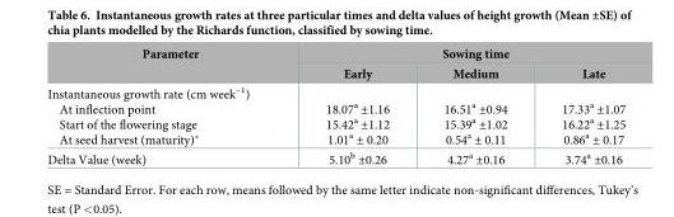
<table><thead><tr><td rowspan="2">Parameter</td><td colspan="3">Sowing time</td></tr><tr><td>Early</td><td>Medium</td><td>Late</td></tr></thead><tbody><tr><td>Instantaneous growth rate (cm week<sup>–1</sup>) At inflection point Start of the flowering stage At seed harvest (maturity)*</td><td>18.07<sup>a</sup> ±1.16 15.42<sup>a</sup> ±1.12 1.01<sup>a</sup> ± 0.20</td><td>16.51<sup>a</sup> ±0.94 15.39<sup>a</sup> ±1.02 0.54<sup>a</sup> ± 0.11</td><td>17.33<sup>a</sup> ±1.07 16.22<sup>a</sup> ±1.25 0.86<sup>a</sup> ± 0.17</td></tr><tr><td>Delta Value (week)</td><td>5.10<sup>b</sup> ±0.26</td><td>4.27<sup>a</sup> ±0.16</td><td>3.74<sup>a</sup> ±0.16</td></tr></tbody></table>